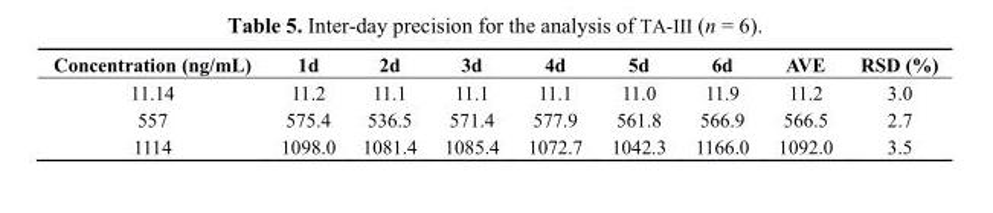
<table><thead><tr><td>Concentration (ng/mL)</td><td>1d</td><td>2d</td><td>3d</td><td>4d</td><td>5d</td><td>6d</td><td>AVE</td><td>RSD (%)</td></tr></thead><tbody><tr><td>11.14</td><td>11.2</td><td>11.1</td><td>11.1</td><td>11.1</td><td>11.0</td><td>11.9</td><td>11.2</td><td>3.0</td></tr><tr><td>557</td><td>575.4</td><td>536.5</td><td>571.4</td><td>577.9</td><td>561.8</td><td>566.9</td><td>566.5</td><td>2.7</td></tr><tr><td>1114</td><td>1098.0</td><td>1081.4</td><td>1085.4</td><td>1072.7</td><td>1042.3</td><td>1166.0</td><td>1092.0</td><td>3.5</td></tr></tbody></table>